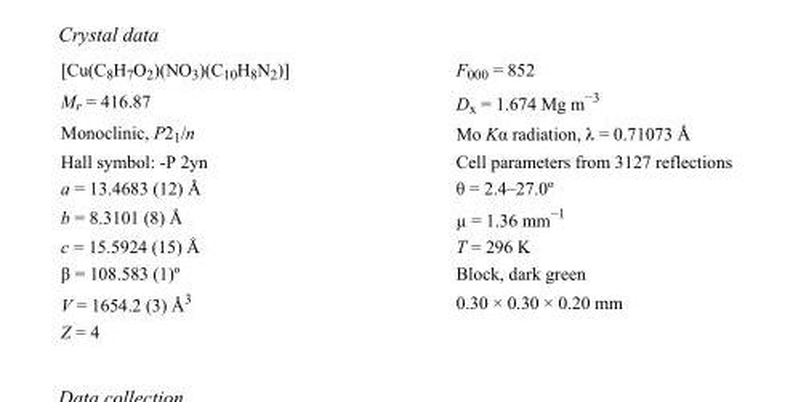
<table><tbody><tr><td>[Cu(C<sub>8</sub>H<sub>7</sub>O<sub>2</sub>)(NO<sub>3</sub>)(C<sub>10</sub>H<sub>8</sub>N<sub>2</sub>)]</td><td>F000 = 852</td></tr><tr><td>M<sub>r</sub> = 416.87</td><td>D<sub>x</sub> = 1.674 Mg m<sup>−3</sup></td></tr><tr><td>Monoclinic, P2<sub>1</sub>/n</td><td>Mo Kα radiation, λ = 0.71073 Å</td></tr><tr><td>Hall symbol: -P 2yn</td><td>Cell parameters from 3127 reflections</td></tr><tr><td>a = 13.4683 (12) Å</td><td>θ = 2.4–27.0º</td></tr><tr><td>b = 8.3101 (8) Å</td><td>µ = 1.36 mm<sup>−1</sup></td></tr><tr><td>c = 15.5924 (15) Å</td><td>T = 296 K</td></tr><tr><td>β = 108.583 (1)º</td><td>Block, dark green</td></tr><tr><td>V = 1654.2 (3) Å<sup>3</sup></td><td>0.30 × 0.30 × 0.20 mm</td></tr><tr><td>Z = 4</td><td></td></tr></tbody></table>